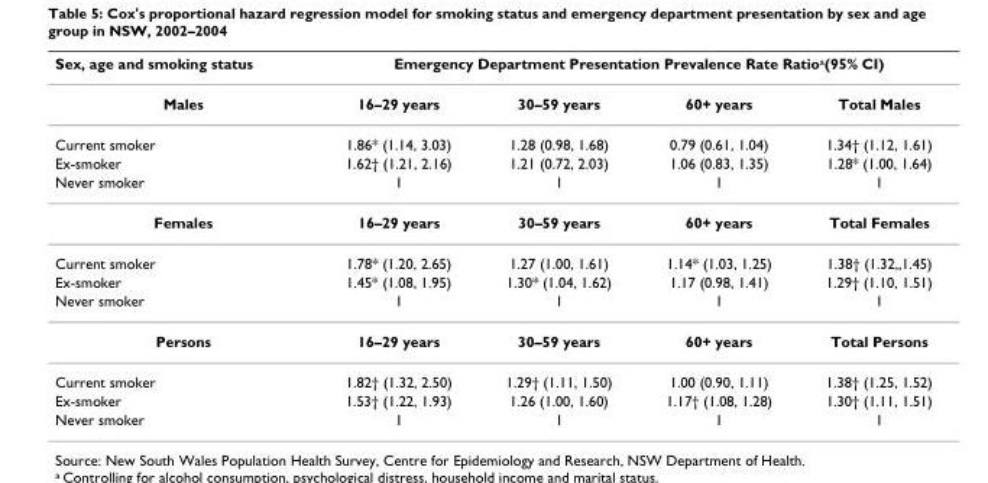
<table><thead><tr><td rowspan="2">Sex, age and smoking status Males</td><td colspan="4">Emergency Department Presentation Prevalence Rate Ratio<sup>a</sup>(95% CI)</td></tr><tr><td>16–29 years</td><td>30–59 years</td><td>60+ years</td><td>Total Males</td></tr></thead><tbody><tr><td>Current smoker</td><td>1.86* (1.14, 3.03)</td><td>1.28 (0.98, 1.68)</td><td>0.79 (0.61, 1.04)</td><td>1.34† (1.12, 1.61)</td></tr><tr><td>Ex-smoker</td><td>1.62† (1.21, 2.16)</td><td>1.21 (0.72, 2.03)</td><td>1.06 (0.83, 1.35)</td><td>1.28* (1.00, 1.64)</td></tr><tr><td>Never smoker</td><td>1</td><td>1</td><td>1</td><td>1</td></tr><tr><td>Females</td><td>16–29 years</td><td>30–59 years</td><td>60+ years</td><td>Total Females</td></tr><tr><td>Current smoker</td><td>1.78* (1.20, 2.65)</td><td>1.27 (1.00, 1.61)</td><td>1.14* (1.03, 1.25)</td><td>1.38† (1.32,,1.45)</td></tr><tr><td>Ex-smoker</td><td>1.45* (1.08, 1.95)</td><td>1.30* (1.04, 1.62)</td><td>1.17 (0.98, 1.41)</td><td>1.29† (1.10, 1.51)</td></tr><tr><td>Never smoker</td><td>1</td><td>1</td><td>1</td><td>1</td></tr><tr><td>Persons</td><td>16–29 years</td><td>30–59 years</td><td>60+ years</td><td>Total Persons</td></tr><tr><td>Current smoker</td><td>1.82† (1.32, 2.50)</td><td>1.29† (1.11, 1.50)</td><td>1.00 (0.90, 1.11)</td><td>1.38† (1.25, 1.52)</td></tr><tr><td>Ex-smoker</td><td>1.53† (1.22, 1.93)</td><td>1.26 (1.00, 1.60)</td><td>1.17† (1.08, 1.28)</td><td>1.30† (1.11, 1.51)</td></tr><tr><td>Never smoker</td><td>1</td><td>1</td><td>1</td><td>1</td></tr></tbody></table>